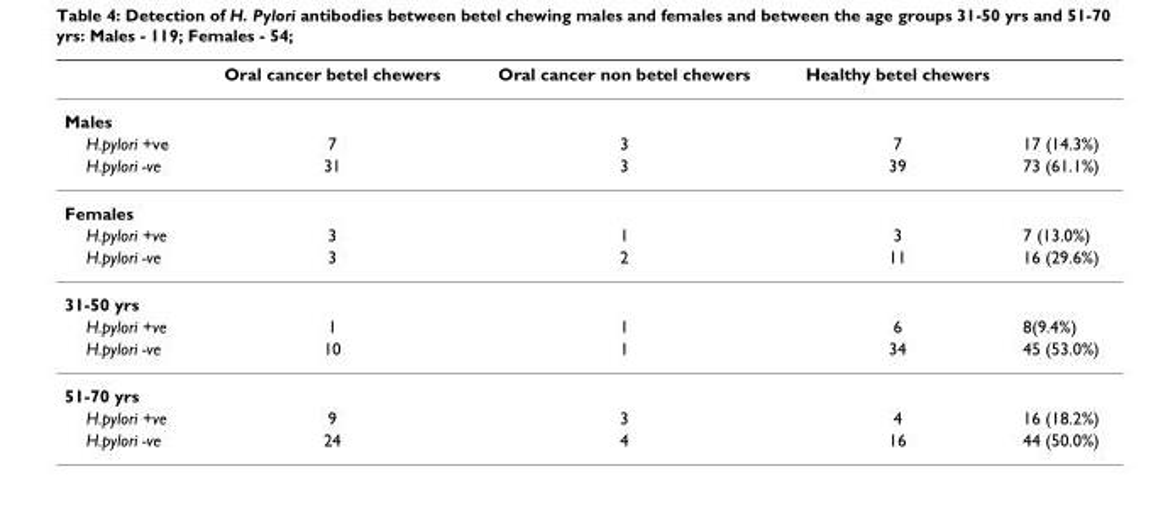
<table><thead><tr><td></td><td>Oral cancer betel chewers</td><td>Oral cancer non betel chewers</td><td>Healthy betel chewers</td><td></td></tr></thead><tbody><tr><td colspan="5">Males</td></tr><tr><td>H.pylori +ve</td><td>7</td><td>3</td><td>7</td><td>17 (14.3%)</td></tr><tr><td>H.pylori -ve</td><td>31</td><td>3</td><td>39</td><td>73 (61.1%)</td></tr><tr><td colspan="5">Females</td></tr><tr><td>H.pylori +ve</td><td>3</td><td>1</td><td>3</td><td>7 (13.0%)</td></tr><tr><td>H.pylori -ve</td><td>3</td><td>2</td><td>11</td><td>16 (29.6%)</td></tr><tr><td colspan="5">31-50 yrs</td></tr><tr><td>H.pylori +ve</td><td>1</td><td>1</td><td>6</td><td>8(9.4%)</td></tr><tr><td>H.pylori -ve</td><td>10</td><td>1</td><td>34</td><td>45 (53.0%)</td></tr><tr><td colspan="5">51-70 yrs</td></tr><tr><td>H.pylori +ve</td><td>9</td><td>3</td><td>4</td><td>16 (18.2%)</td></tr><tr><td>H.pylori -ve</td><td>24</td><td>4</td><td>16</td><td>44 (50.0%)</td></tr></tbody></table>